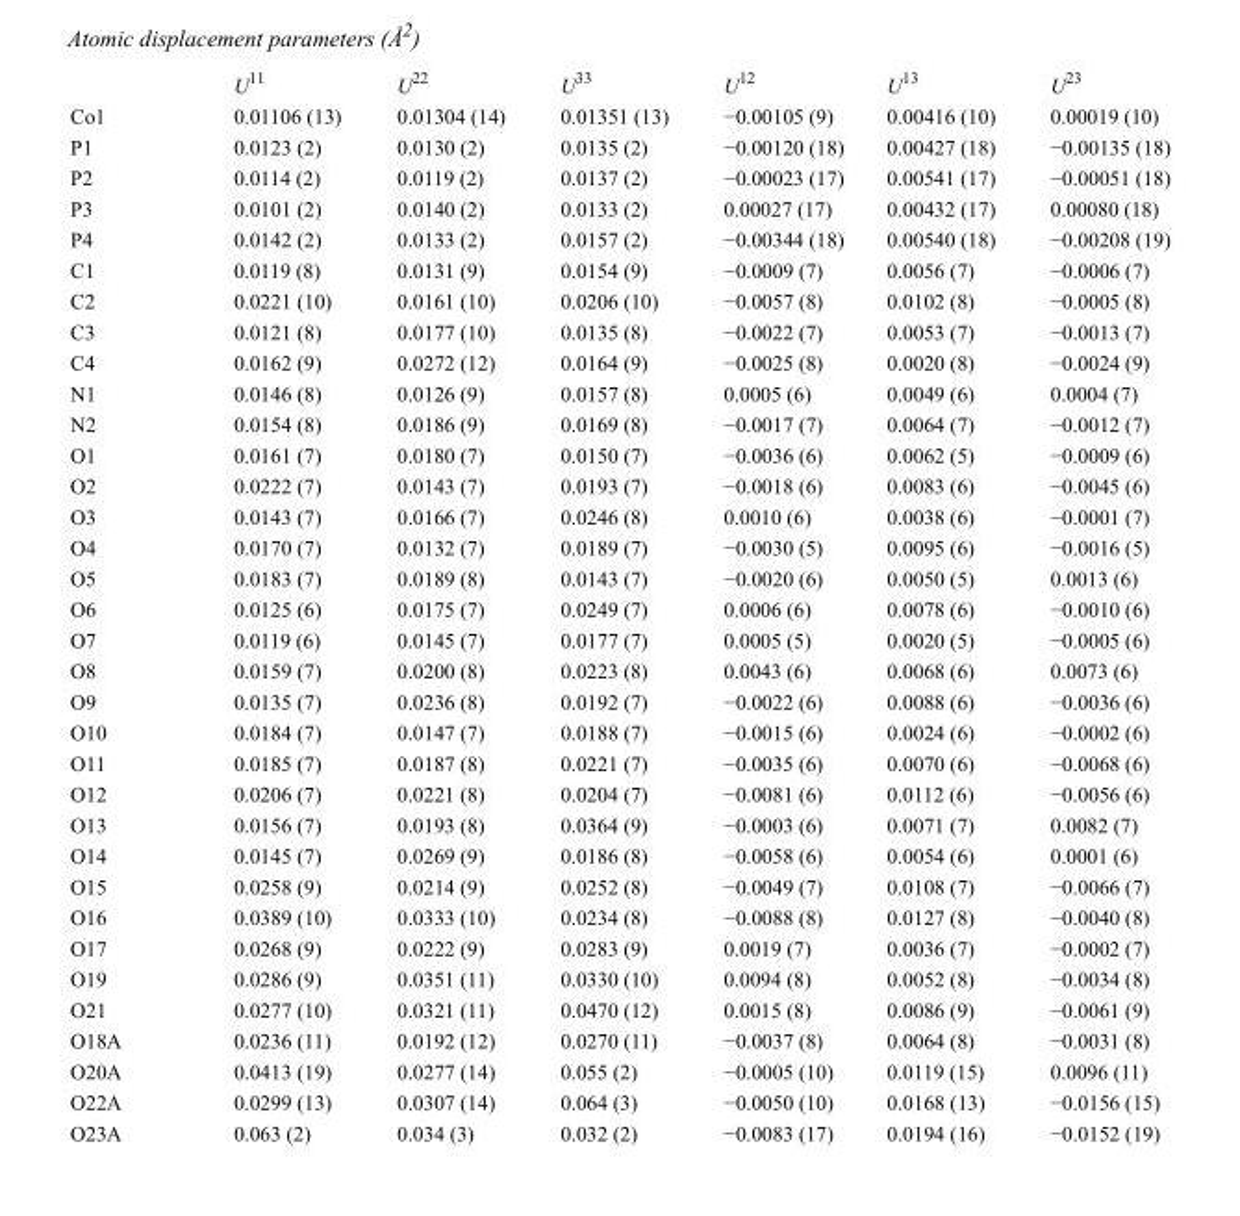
<table><thead><tr><td></td><td>U<sup>11</sup></td><td>U<sup>22</sup></td><td>U<sup>33</sup></td><td>U<sup>12</sup></td><td>U<sup>13</sup></td><td>U<sup>23</sup></td></tr></thead><tbody><tr><td>Co1</td><td>0.01106 (13)</td><td>0.01304 (14)</td><td>0.01351 (13)</td><td>−0.00105 (9)</td><td>0.00416 (10)</td><td>0.00019 (10)</td></tr><tr><td>P1</td><td>0.0123 (2)</td><td>0.0130 (2)</td><td>0.0135 (2)</td><td>−0.00120 (18)</td><td>0.00427 (18)</td><td>−0.00135 (18)</td></tr><tr><td>P2</td><td>0.0114 (2)</td><td>0.0119 (2)</td><td>0.0137 (2)</td><td>−0.00023 (17)</td><td>0.00541 (17)</td><td>−0.00051 (18)</td></tr><tr><td>P3</td><td>0.0101 (2)</td><td>0.0140 (2)</td><td>0.0133 (2)</td><td>0.00027 (17)</td><td>0.00432 (17)</td><td>0.00080 (18)</td></tr><tr><td>P4</td><td>0.0142 (2)</td><td>0.0133 (2)</td><td>0.0157 (2)</td><td>−0.00344 (18)</td><td>0.00540 (18)</td><td>−0.00208 (19)</td></tr><tr><td>C1</td><td>0.0119 (8)</td><td>0.0131 (9)</td><td>0.0154 (9)</td><td>−0.0009 (7)</td><td>0.0056 (7)</td><td>−0.0006 (7)</td></tr><tr><td>C2</td><td>0.0221 (10)</td><td>0.0161 (10)</td><td>0.0206 (10)</td><td>−0.0057 (8)</td><td>0.0102 (8)</td><td>−0.0005 (8)</td></tr><tr><td>C3</td><td>0.0121 (8)</td><td>0.0177 (10)</td><td>0.0135 (8)</td><td>−0.0022 (7)</td><td>0.0053 (7)</td><td>−0.0013 (7)</td></tr><tr><td>C4</td><td>0.0162 (9)</td><td>0.0272 (12)</td><td>0.0164 (9)</td><td>−0.0025 (8)</td><td>0.0020 (8)</td><td>−0.0024 (9)</td></tr><tr><td>N1</td><td>0.0146 (8)</td><td>0.0126 (9)</td><td>0.0157 (8)</td><td>0.0005 (6)</td><td>0.0049 (6)</td><td>0.0004 (7)</td></tr><tr><td>N2</td><td>0.0154 (8)</td><td>0.0186 (9)</td><td>0.0169 (8)</td><td>−0.0017 (7)</td><td>0.0064 (7)</td><td>−0.0012 (7)</td></tr><tr><td>O1</td><td>0.0161 (7)</td><td>0.0180 (7)</td><td>0.0150 (7)</td><td>−0.0036 (6)</td><td>0.0062 (5)</td><td>−0.0009 (6)</td></tr><tr><td>O2</td><td>0.0222 (7)</td><td>0.0143 (7)</td><td>0.0193 (7)</td><td>−0.0018 (6)</td><td>0.0083 (6)</td><td>−0.0045 (6)</td></tr><tr><td>O3</td><td>0.0143 (7)</td><td>0.0166 (7)</td><td>0.0246 (8)</td><td>0.0010 (6)</td><td>0.0038 (6)</td><td>−0.0001 (7)</td></tr><tr><td>O4</td><td>0.0170 (7)</td><td>0.0132 (7)</td><td>0.0189 (7)</td><td>−0.0030 (5)</td><td>0.0095 (6)</td><td>−0.0016 (5)</td></tr><tr><td>O5</td><td>0.0183 (7)</td><td>0.0189 (8)</td><td>0.0143 (7)</td><td>−0.0020 (6)</td><td>0.0050 (5)</td><td>0.0013 (6)</td></tr><tr><td>O6</td><td>0.0125 (6)</td><td>0.0175 (7)</td><td>0.0249 (7)</td><td>0.0006 (6)</td><td>0.0078 (6)</td><td>−0.0010 (6)</td></tr><tr><td>O7</td><td>0.0119 (6)</td><td>0.0145 (7)</td><td>0.0177 (7)</td><td>0.0005 (5)</td><td>0.0020 (5)</td><td>−0.0005 (6)</td></tr><tr><td>O8</td><td>0.0159 (7)</td><td>0.0200 (8)</td><td>0.0223 (8)</td><td>0.0043 (6)</td><td>0.0068 (6)</td><td>0.0073 (6)</td></tr><tr><td>O9</td><td>0.0135 (7)</td><td>0.0236 (8)</td><td>0.0192 (7)</td><td>−0.0022 (6)</td><td>0.0088 (6)</td><td>−0.0036 (6)</td></tr><tr><td>O10</td><td>0.0184 (7)</td><td>0.0147 (7)</td><td>0.0188 (7)</td><td>−0.0015 (6)</td><td>0.0024 (6)</td><td>−0.0002 (6)</td></tr><tr><td>O11</td><td>0.0185 (7)</td><td>0.0187 (8)</td><td>0.0221 (7)</td><td>−0.0035 (6)</td><td>0.0070 (6)</td><td>−0.0068 (6)</td></tr><tr><td>O12</td><td>0.0206 (7)</td><td>0.0221 (8)</td><td>0.0204 (7)</td><td>−0.0081 (6)</td><td>0.0112 (6)</td><td>−0.0056 (6)</td></tr><tr><td>O13</td><td>0.0156 (7)</td><td>0.0193 (8)</td><td>0.0364 (9)</td><td>−0.0003 (6)</td><td>0.0071 (7)</td><td>0.0082 (7)</td></tr><tr><td>O14</td><td>0.0145 (7)</td><td>0.0269 (9)</td><td>0.0186 (8)</td><td>−0.0058 (6)</td><td>0.0054 (6)</td><td>0.0001 (6)</td></tr><tr><td>O15</td><td>0.0258 (9)</td><td>0.0214 (9)</td><td>0.0252 (8)</td><td>−0.0049 (7)</td><td>0.0108 (7)</td><td>−0.0066 (7)</td></tr><tr><td>O16</td><td>0.0389 (10)</td><td>0.0333 (10)</td><td>0.0234 (8)</td><td>−0.0088 (8)</td><td>0.0127 (8)</td><td>−0.0040 (8)</td></tr><tr><td>O17</td><td>0.0268 (9)</td><td>0.0222 (9)</td><td>0.0283 (9)</td><td>0.0019 (7)</td><td>0.0036 (7)</td><td>−0.0002 (7)</td></tr><tr><td>O19</td><td>0.0286 (9)</td><td>0.0351 (11)</td><td>0.0330 (10)</td><td>0.0094 (8)</td><td>0.0052 (8)</td><td>−0.0034 (8)</td></tr><tr><td>O21</td><td>0.0277 (10)</td><td>0.0321 (11)</td><td>0.0470 (12)</td><td>0.0015 (8)</td><td>0.0086 (9)</td><td>−0.0061 (9)</td></tr><tr><td>O18A</td><td>0.0236 (11)</td><td>0.0192 (12)</td><td>0.0270 (11)</td><td>−0.0037 (8)</td><td>0.0064 (8)</td><td>−0.0031 (8)</td></tr><tr><td>O20A</td><td>0.0413 (19)</td><td>0.0277 (14)</td><td>0.055 (2)</td><td>−0.0005 (10)</td><td>0.0119 (15)</td><td>0.0096 (11)</td></tr><tr><td>O22A</td><td>0.0299 (13)</td><td>0.0307 (14)</td><td>0.064 (3)</td><td>−0.0050 (10)</td><td>0.0168 (13)</td><td>−0.0156 (15)</td></tr><tr><td>O23A</td><td>0.063 (2)</td><td>0.034 (3)</td><td>0.032 (2)</td><td>−0.0083 (17)</td><td>0.0194 (16)</td><td>−0.0152 (19)</td></tr></tbody></table>